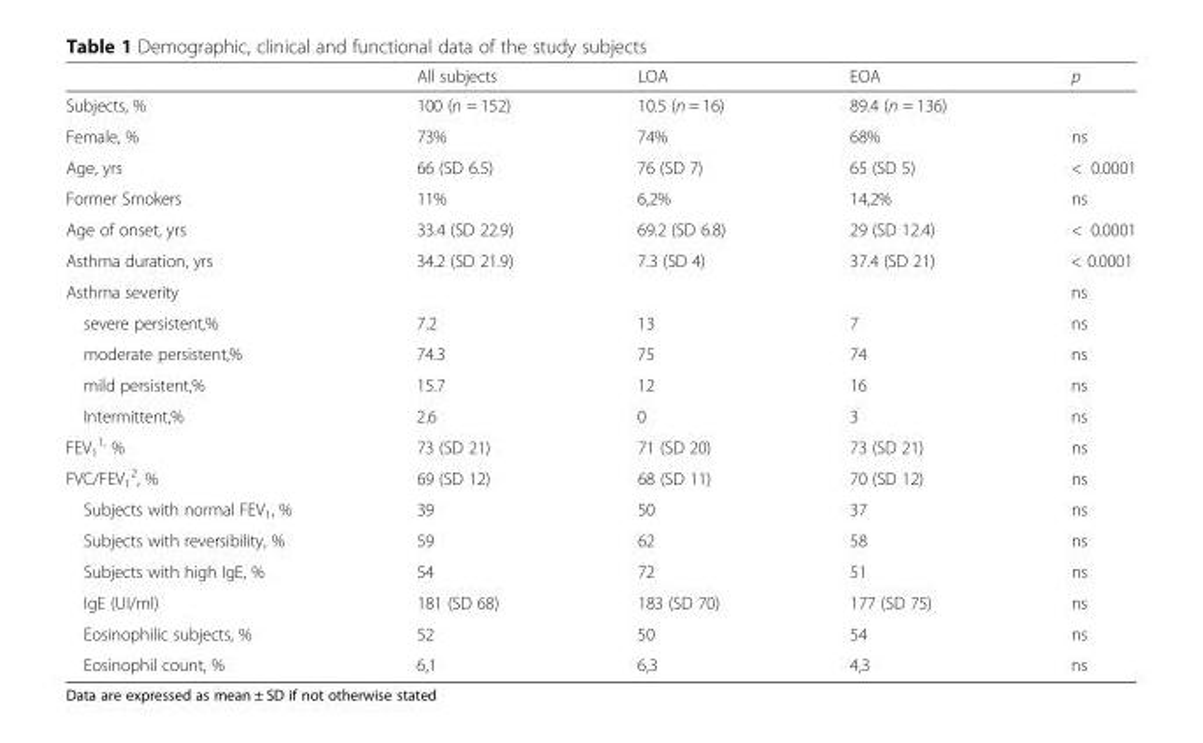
<table><thead><tr><td></td><td>All subjects</td><td>LOA</td><td>EOA</td><td>p</td></tr></thead><tbody><tr><td>Subjects, %</td><td>100 (n = 152)</td><td>10.5 (n = 16)</td><td>89.4 (n = 136)</td><td></td></tr><tr><td>Female, %</td><td>73%</td><td>74%</td><td>68%</td><td>ns</td></tr><tr><td>Age, yrs</td><td>66 (SD 6.5)</td><td>76 (SD 7)</td><td>65 (SD 5)</td><td>&lt; 0.0001</td></tr><tr><td>Former Smokers</td><td>11%</td><td>6,2%</td><td>14,2%</td><td>ns</td></tr><tr><td>Age of onset, yrs</td><td>33.4 (SD 22.9)</td><td>69.2 (SD 6.8)</td><td>29 (SD 12.4)</td><td>&lt; 0.0001</td></tr><tr><td>Asthma duration, yrs</td><td>34.2 (SD 21.9)</td><td>7.3 (SD 4)</td><td>37.4 (SD 21)</td><td>&lt; 0.0001</td></tr><tr><td>Asthma severity</td><td></td><td></td><td></td><td>ns</td></tr><tr><td>severe persistent,%</td><td>7.2</td><td>13</td><td>7</td><td>ns</td></tr><tr><td>moderate persistent,%</td><td>74.3</td><td>75</td><td>74</td><td>ns</td></tr><tr><td>mild persistent,%</td><td>15.7</td><td>12</td><td>16</td><td>ns</td></tr><tr><td>Intermittent,%</td><td>2.6</td><td>0</td><td>3</td><td>ns</td></tr><tr><td>FEV<sub>1</sub> <sup>1,</sup> %</td><td>73 (SD 21)</td><td>71 (SD 20)</td><td>73 (SD 21)</td><td>ns</td></tr><tr><td>FVC/FEV<sub>1</sub> <sup>2</sup>, %</td><td>69 (SD 12)</td><td>68 (SD 11)</td><td>70 (SD 12)</td><td>ns</td></tr><tr><td>Subjects with normal FEV<sub>1</sub>, %</td><td>39</td><td>50</td><td>37</td><td>ns</td></tr><tr><td>Subjects with reversibility, %</td><td>59</td><td>62</td><td>58</td><td>ns</td></tr><tr><td>Subjects with high IgE, %</td><td>54</td><td>72</td><td>51</td><td>ns</td></tr><tr><td>IgE (UI/ml)</td><td>181 (SD 68)</td><td>183 (SD 70)</td><td>177 (SD 75)</td><td>ns</td></tr><tr><td>Eosinophilic subjects, %</td><td>52</td><td>50</td><td>54</td><td>ns</td></tr><tr><td>Eosinophil count, %</td><td>6,1</td><td>6,3</td><td>4,3</td><td>ns</td></tr></tbody></table>